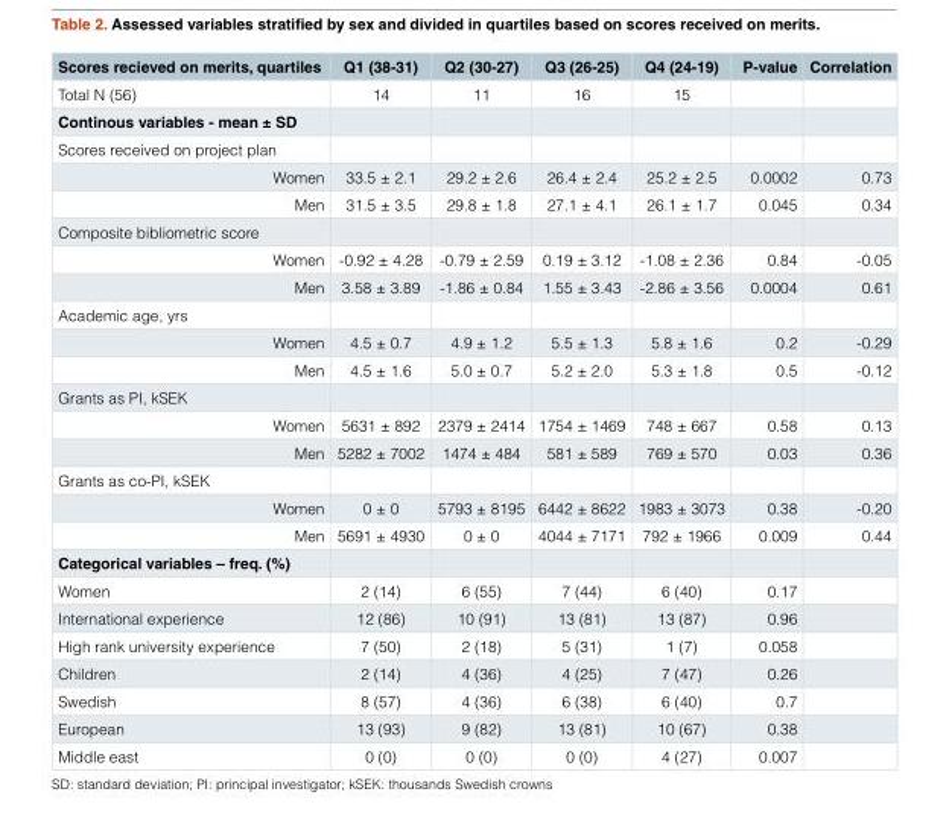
<table><thead><tr><td>Scores recieved on merits, quartiles</td><td>Q1 (38-31)</td><td>Q2 (30-27)</td><td>Q3 (26-25)</td><td>Q4 (24-19)</td><td>P-value</td><td>Correlation</td></tr></thead><tbody><tr><td>Total N (56)</td><td>14</td><td>11</td><td>16</td><td>15</td><td></td><td></td></tr><tr><td colspan="7">Continous variables - mean ± SD</td></tr><tr><td colspan="7">Scores received on project plan</td></tr><tr><td>Women</td><td>33.5 ± 2.1</td><td>29.2 ± 2.6</td><td>26.4 ± 2.4</td><td>25.2 ± 2.5</td><td>0.0002</td><td>0.73</td></tr><tr><td>Men</td><td>31.5 ± 3.5</td><td>29.8 ± 1.8</td><td>27.1 ± 4.1</td><td>26.1 ± 1.7</td><td>0.045</td><td>0.34</td></tr><tr><td colspan="7">Composite bibliometric score</td></tr><tr><td>Women</td><td>-0.92 ± 4.28</td><td>-0.79 ± 2.59</td><td>0.19 ± 3.12</td><td>-1.08 ± 2.36</td><td>0.84</td><td>-0.05</td></tr><tr><td>Men</td><td>3.58 ± 3.89</td><td>-1.86 ± 0.84</td><td>1.55 ± 3.43</td><td>-2.86 ± 3.56</td><td>0.0004</td><td>0.61</td></tr><tr><td colspan="7">Academic age, yrs</td></tr><tr><td>Women</td><td>4.5 ± 0.7</td><td>4.9 ± 1.2</td><td>5.5 ± 1.3</td><td>5.8 ± 1.6</td><td>0.2</td><td>-0.29</td></tr><tr><td>Men</td><td>4.5 ± 1.6</td><td>5.0 ± 0.7</td><td>5.2 ± 2.0</td><td>5.3 ± 1.8</td><td>0.5</td><td>-0.12</td></tr><tr><td colspan="7">Grants as PI, kSEK</td></tr><tr><td>Women</td><td>5631 ± 892</td><td>2379 ± 2414</td><td>1754 ± 1469</td><td>748 ± 667</td><td>0.58</td><td>0.13</td></tr><tr><td>Men</td><td>5282 ± 7002</td><td>1474 ± 484</td><td>581 ± 589</td><td>769 ± 570</td><td>0.03</td><td>0.36</td></tr><tr><td colspan="7">Grants as co-PI, kSEK</td></tr><tr><td>Women</td><td>0 ± 0</td><td>5793 ± 8195</td><td>6442 ± 8622</td><td>1983 ± 3073</td><td>0.38</td><td>-0.20</td></tr><tr><td>Men</td><td>5691 ± 4930</td><td>0 ± 0</td><td>4044 ± 7171</td><td>792 ± 1966</td><td>0.009</td><td>0.44</td></tr><tr><td colspan="7">Categorical variables – freq. (%)</td></tr><tr><td>Women</td><td>2 (14)</td><td>6 (55)</td><td>7 (44)</td><td>6 (40)</td><td>0.17</td><td></td></tr><tr><td>International experience</td><td>12 (86)</td><td>10 (91)</td><td>13 (81)</td><td>13 (87)</td><td>0.96</td><td></td></tr><tr><td>High rank university experience</td><td>7 (50)</td><td>2 (18)</td><td>5 (31)</td><td>1 (7)</td><td>0.058</td><td></td></tr><tr><td>Children</td><td>2 (14)</td><td>4 (36)</td><td>4 (25)</td><td>7 (47)</td><td>0.26</td><td></td></tr><tr><td>Swedish</td><td>8 (57)</td><td>4 (36)</td><td>6 (38)</td><td>6 (40)</td><td>0.7</td><td></td></tr><tr><td>European</td><td>13 (93)</td><td>9 (82)</td><td>13 (81)</td><td>10 (67)</td><td>0.38</td><td></td></tr><tr><td>Middle east</td><td>0 (0)</td><td>0 (0)</td><td>0 (0)</td><td>4 (27)</td><td>0.007</td><td></td></tr></tbody></table>